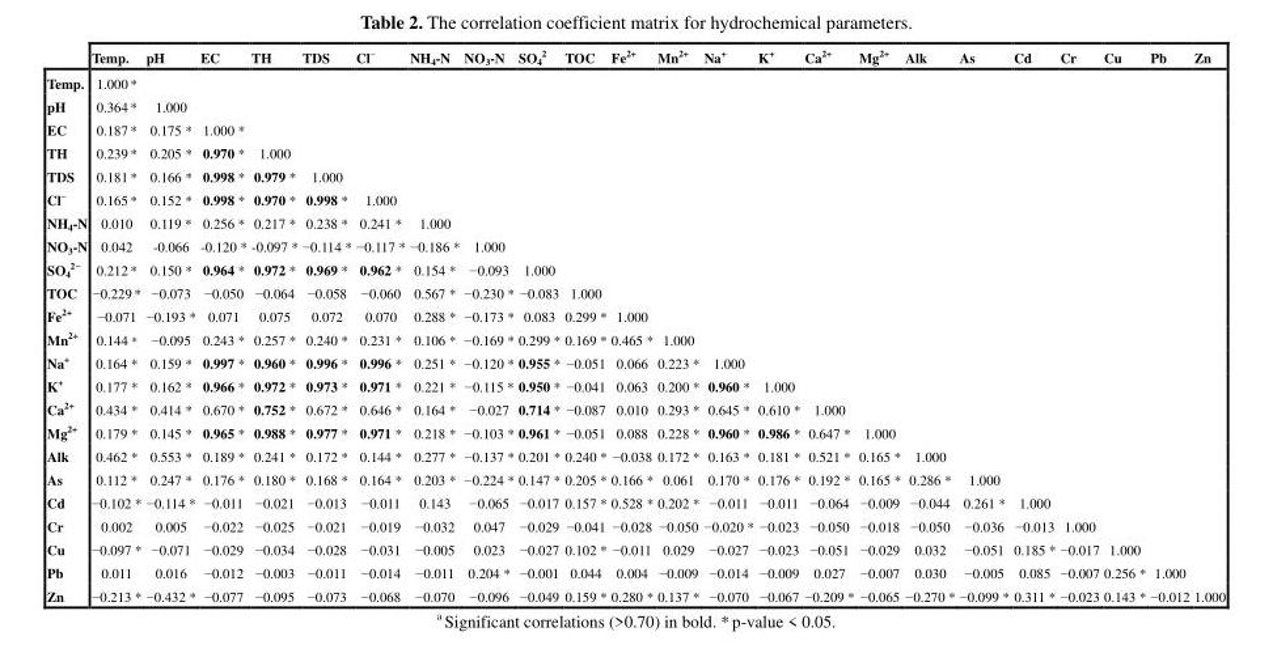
<table><thead><tr><td></td><td>Temp.</td><td>pH</td><td>EC</td><td>TH</td><td>TDS</td><td>Cl<sup>–</sup></td><td>NH<sub>4</sub>-N</td><td>NO<sub>3</sub>-N</td><td>SO<sub>4</sub> <sup>2</sup></td><td>TOC</td><td>Fe<sup>2+</sup></td><td>Mn<sup>2+</sup></td><td>Na<sup>+</sup></td><td>K<sup>+</sup></td><td>Ca<sup>2+</sup></td><td>Mg<sup>2+</sup></td><td>Alk</td><td>As</td><td>Cd</td><td>Cr</td><td>Cu</td><td>Pb</td><td>Zn</td></tr></thead><tbody><tr><td>Temp.</td><td>1.000 *</td><td></td><td></td><td></td><td></td><td></td><td></td><td></td><td></td><td></td><td></td><td></td><td></td><td></td><td></td><td></td><td></td><td></td><td></td><td></td><td></td><td></td><td></td></tr><tr><td>pH</td><td>0.364 *</td><td>1.000</td><td></td><td></td><td></td><td></td><td></td><td></td><td></td><td></td><td></td><td></td><td></td><td></td><td></td><td></td><td></td><td></td><td></td><td></td><td></td><td></td><td></td></tr><tr><td>EC</td><td>0.187 *</td><td>0.175 *</td><td>1.000 *</td><td></td><td></td><td></td><td></td><td></td><td></td><td></td><td></td><td></td><td></td><td></td><td></td><td></td><td></td><td></td><td></td><td></td><td></td><td></td><td></td></tr><tr><td>TH</td><td>0.239 *</td><td>0.205 *</td><td>0.970 *</td><td>1.000</td><td></td><td></td><td></td><td></td><td></td><td></td><td></td><td></td><td></td><td></td><td></td><td></td><td></td><td></td><td></td><td></td><td></td><td></td><td></td></tr><tr><td>TDS</td><td>0.181 *</td><td>0.166 *</td><td>0.998 *</td><td>0.979 *</td><td>1.000</td><td></td><td></td><td></td><td></td><td></td><td></td><td></td><td></td><td></td><td></td><td></td><td></td><td></td><td></td><td></td><td></td><td></td><td></td></tr><tr><td>Cl<sup>–</sup></td><td>0.165 *</td><td>0.152 *</td><td>0.998 *</td><td>0.970 *</td><td>0.998 *</td><td>1.000</td><td></td><td></td><td></td><td></td><td></td><td></td><td></td><td></td><td></td><td></td><td></td><td></td><td></td><td></td><td></td><td></td><td></td></tr><tr><td>NH<sub>4</sub>-N</td><td>0.010</td><td>0.119 *</td><td>0.256 *</td><td>0.217 *</td><td>0.238 *</td><td>0.241 *</td><td>1.000</td><td></td><td></td><td></td><td></td><td></td><td></td><td></td><td></td><td></td><td></td><td></td><td></td><td></td><td></td><td></td><td></td></tr><tr><td>NO<sub>3</sub>-N</td><td>0.042</td><td>-0.066</td><td>-0.120 *</td><td>-0.097 *</td><td>−0.114 *</td><td>−0.117 *</td><td>−0.186 *</td><td>1.000</td><td></td><td></td><td></td><td></td><td></td><td></td><td></td><td></td><td></td><td></td><td></td><td></td><td></td><td></td><td></td></tr><tr><td>SO<sub>4</sub> <sup>2−</sup></td><td>0.212 *</td><td>0.150 *</td><td>0.964 *</td><td>0.972 *</td><td>0.969 *</td><td>0.962 *</td><td>0.154 *</td><td>−0.093</td><td>1.000</td><td></td><td></td><td></td><td></td><td></td><td></td><td></td><td></td><td></td><td></td><td></td><td></td><td></td><td></td></tr><tr><td>TOC</td><td>−0.229 *</td><td>−0.073</td><td>−0.050</td><td>−0.064</td><td>−0.058</td><td>−0.060</td><td>0.567 *</td><td>−0.230 *</td><td>−0.083</td><td>1.000</td><td></td><td></td><td></td><td></td><td></td><td></td><td></td><td></td><td></td><td></td><td></td><td></td><td></td></tr><tr><td>Fe<sup>2+</sup></td><td>−0.071</td><td>−0.193 *</td><td>0.071</td><td>0.075</td><td>0.072</td><td>0.070</td><td>0.288 *</td><td>−0.173 *</td><td>0.083</td><td>0.299 *</td><td>1.000</td><td></td><td></td><td></td><td></td><td></td><td></td><td></td><td></td><td></td><td></td><td></td><td></td></tr><tr><td>Mn<sup>2+</sup></td><td>0.144 *</td><td>−0.095</td><td>0.243 *</td><td>0.257 *</td><td>0.240 *</td><td>0.231 *</td><td>0.106 *</td><td>−0.169 *</td><td>0.299 *</td><td>0.169 *</td><td>0.465 *</td><td>1.000</td><td></td><td></td><td></td><td></td><td></td><td></td><td></td><td></td><td></td><td></td><td></td></tr><tr><td>Na<sup>+</sup></td><td>0.164 *</td><td>0.159 *</td><td>0.997 *</td><td>0.960 *</td><td>0.996 *</td><td>0.996 *</td><td>0.251 *</td><td>−0.120 *</td><td>0.955 *</td><td>−0.051</td><td>0.066</td><td>0.223 *</td><td>1.000</td><td></td><td></td><td></td><td></td><td></td><td></td><td></td><td></td><td></td><td></td></tr><tr><td>K<sup>+</sup></td><td>0.177 *</td><td>0.162 *</td><td>0.966 *</td><td>0.972 *</td><td>0.973 *</td><td>0.971 *</td><td>0.221 *</td><td>−0.115 *</td><td>0.950 *</td><td>−0.041</td><td>0.063</td><td>0.200 *</td><td>0.960 *</td><td>1.000</td><td></td><td></td><td></td><td></td><td></td><td></td><td></td><td></td><td></td></tr><tr><td>Ca<sup>2+</sup></td><td>0.434 *</td><td>0.414 *</td><td>0.670 *</td><td>0.752 *</td><td>0.672 *</td><td>0.646 *</td><td>0.164 *</td><td>−0.027</td><td>0.714 *</td><td>−0.087</td><td>0.010</td><td>0.293 *</td><td>0.645 *</td><td>0.610 *</td><td>1.000</td><td></td><td></td><td></td><td></td><td></td><td></td><td></td><td></td></tr><tr><td>Mg<sup>2+</sup></td><td>0.179 *</td><td>0.145 *</td><td>0.965 *</td><td>0.988 *</td><td>0.977 *</td><td>0.971 *</td><td>0.218 *</td><td>−0.103 *</td><td>0.961 *</td><td>−0.051</td><td>0.088</td><td>0.228 *</td><td>0.960 *</td><td>0.986 *</td><td>0.647 *</td><td>1.000</td><td></td><td></td><td></td><td></td><td></td><td></td><td></td></tr><tr><td>Alk</td><td>0.462 *</td><td>0.553 *</td><td>0.189 *</td><td>0.241 *</td><td>0.172 *</td><td>0.144 *</td><td>0.277 *</td><td>−0.137 *</td><td>0.201 *</td><td>0.240 *</td><td>−0.038</td><td>0.172 *</td><td>0.163 *</td><td>0.181 *</td><td>0.521 *</td><td>0.165 *</td><td>1.000</td><td></td><td></td><td></td><td></td><td></td><td></td></tr><tr><td>As</td><td>0.112 *</td><td>0.247 *</td><td>0.176 *</td><td>0.180 *</td><td>0.168 *</td><td>0.164 *</td><td>0.203 *</td><td>−0.224 *</td><td>0.147 *</td><td>0.205 *</td><td>0.166 *</td><td>0.061</td><td>0.170 *</td><td>0.176 *</td><td>0.192 *</td><td>0.165 *</td><td>0.286 *</td><td>1.000</td><td></td><td></td><td></td><td></td><td></td></tr><tr><td>Cd</td><td>−0.102 *</td><td>−0.114 *</td><td>−0.011</td><td>−0.021</td><td>−0.013</td><td>−0.011</td><td>0.143</td><td>−0.065</td><td>−0.017</td><td>0.157 *</td><td>0.528 *</td><td>0.202 *</td><td>−0.011</td><td>−0.011</td><td>−0.064</td><td>−0.009</td><td>−0.044</td><td>0.261 *</td><td>1.000</td><td></td><td></td><td></td><td></td></tr><tr><td>Cr</td><td>0.002</td><td>0.005</td><td>−0.022</td><td>−0.025</td><td>−0.021</td><td>−0.019</td><td>−0.032</td><td>0.047</td><td>−0.029</td><td>−0.041</td><td>−0.028</td><td>−0.050</td><td>−0.020 *</td><td>−0.023</td><td>−0.050</td><td>−0.018</td><td>−0.050</td><td>−0.036</td><td>−0.013</td><td>1.000</td><td></td><td></td><td></td></tr><tr><td>Cu</td><td>−0.097 *</td><td>−0.071</td><td>−0.029</td><td>−0.034</td><td>−0.028</td><td>−0.031</td><td>−0.005</td><td>0.023</td><td>−0.027</td><td>0.102 *</td><td>−0.011</td><td>0.029</td><td>−0.027</td><td>−0.023</td><td>−0.051</td><td>−0.029</td><td>0.032</td><td>−0.051</td><td>0.185 *</td><td>−0.017</td><td>1.000</td><td></td><td></td></tr><tr><td>Pb</td><td>0.011</td><td>0.016</td><td>−0.012</td><td>−0.003</td><td>−0.011</td><td>−0.014</td><td>−0.011</td><td>0.204 *</td><td>−0.001</td><td>0.044</td><td>0.004</td><td>−0.009</td><td>−0.014</td><td>−0.009</td><td>0.027</td><td>−0.007</td><td>0.030</td><td>−0.005</td><td>0.085</td><td>−0.007</td><td>0.256 *</td><td>1.000</td><td></td></tr><tr><td>Zn</td><td>−0.213 *</td><td>−0.432 *</td><td>−0.077</td><td>−0.095</td><td>−0.073</td><td>−0.068</td><td>−0.070</td><td>−0.096</td><td>−0.049</td><td>0.159 *</td><td>0.280 *</td><td>0.137 *</td><td>−0.070</td><td>−0.067</td><td>−0.209 *</td><td>−0.065</td><td>−0.270 *</td><td>−0.099 *</td><td>0.311 *</td><td>−0.023</td><td>0.143 *</td><td>−0.012</td><td>1.000</td></tr></tbody></table>